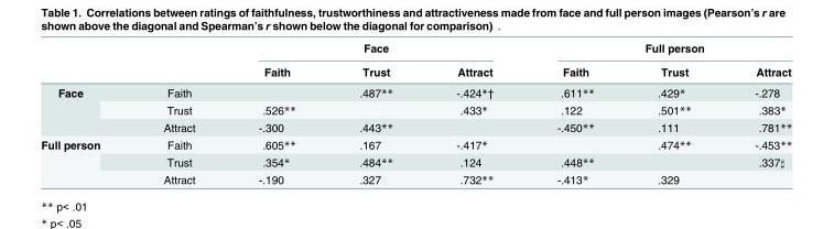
<table><thead><tr><td rowspan="2"></td><td rowspan="2"></td><td colspan="3">Face</td><td colspan="3">Full person</td></tr><tr><td>Faith</td><td>Trust</td><td>Attract</td><td>Faith</td><td>Trust</td><td>Attract</td></tr></thead><tbody><tr><td rowspan="3">Face</td><td>Faith</td><td></td><td>.487**</td><td>-.424*†</td><td>.611**</td><td>.429*</td><td>-.278</td></tr><tr><td>Trust</td><td>.526**</td><td></td><td>.433*</td><td>.122</td><td>.501**</td><td>.383*</td></tr><tr><td>Attract</td><td>-.300</td><td>.443**</td><td></td><td>-.450**</td><td>.111</td><td>.781**</td></tr><tr><td rowspan="3">Full person</td><td>Faith</td><td>.605**</td><td>.167</td><td>-.417*</td><td></td><td>.474**</td><td>-.453**</td></tr><tr><td>Trust</td><td>.354*</td><td>.484**</td><td>.124</td><td>.448**</td><td></td><td>.337♯</td></tr><tr><td>Attract</td><td>-.190</td><td>.327</td><td>.732**</td><td>-.413*</td><td>.329</td><td></td></tr></tbody></table>